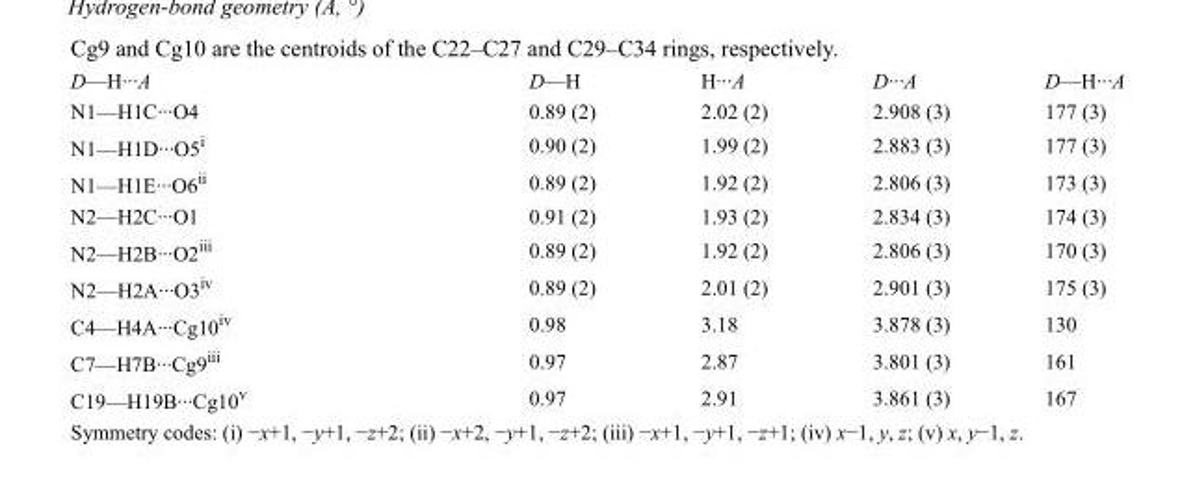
<table><tbody><tr><td>D—H···A</td><td>D—H</td><td>H···A</td><td>D···A</td><td>D—H···A</td></tr><tr><td>N1—H1C···O4</td><td>0.89 (2)</td><td>2.02 (2)</td><td>2.908 (3)</td><td>177 (3)</td></tr><tr><td>N1—H1D···O5<sup>i</sup></td><td>0.90 (2)</td><td>1.99 (2)</td><td>2.883 (3)</td><td>177 (3)</td></tr><tr><td>N1—H1E···O6<sup>ii</sup></td><td>0.89 (2)</td><td>1.92 (2)</td><td>2.806 (3)</td><td>173 (3)</td></tr><tr><td>N2—H2C···O1</td><td>0.91 (2)</td><td>1.93 (2)</td><td>2.834 (3)</td><td>174 (3)</td></tr><tr><td>N2—H2B···O2<sup>iii</sup></td><td>0.89 (2)</td><td>1.92 (2)</td><td>2.806 (3)</td><td>170 (3)</td></tr><tr><td>N2—H2A···O3<sup>iv</sup></td><td>0.89 (2)</td><td>2.01 (2)</td><td>2.901 (3)</td><td>175 (3)</td></tr><tr><td>C4—H4A···Cg10<sup>iv</sup></td><td>0.98</td><td>3.18</td><td>3.878 (3)</td><td>130</td></tr><tr><td>C7—H7B···Cg9<sup>iii</sup></td><td>0.97</td><td>2.87</td><td>3.801 (3)</td><td>161</td></tr><tr><td>C19—H19B···Cg10<sup>v</sup></td><td>0.97</td><td>2.91</td><td>3.861 (3)</td><td>167</td></tr></tbody></table>